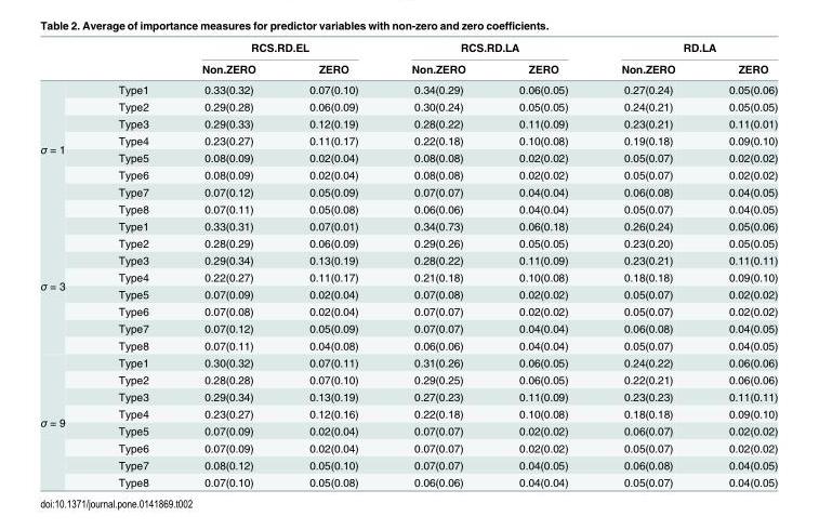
<table><thead><tr><td rowspan="2"></td><td rowspan="2"></td><td colspan="2">RCS.RD.EL</td><td colspan="2">RCS.RD.LA</td><td colspan="2">RD.LA</td></tr><tr><td>Non.ZERO</td><td>ZERO</td><td>Non.ZERO</td><td>ZERO</td><td>Non.ZERO</td><td>ZERO</td></tr></thead><tbody><tr><td rowspan="8">σ = 1</td><td>Type1</td><td>0.33(0.32)</td><td>0.07(0.10)</td><td>0.34(0.29)</td><td>0.06(0.05)</td><td>0.27(0.24)</td><td>0.05(0.06)</td></tr><tr><td>Type2</td><td>0.29(0.28)</td><td>0.06(0.09)</td><td>0.30(0.24)</td><td>0.05(0.05)</td><td>0.24(0.21)</td><td>0.05(0.05)</td></tr><tr><td>Type3</td><td>0.29(0.33)</td><td>0.12(0.19)</td><td>0.28(0.22)</td><td>0.11(0.09)</td><td>0.23(0.21)</td><td>0.11(0.01)</td></tr><tr><td>Type4</td><td>0.23(0.27)</td><td>0.11(0.17)</td><td>0.22(0.18)</td><td>0.10(0.08)</td><td>0.19(0.18)</td><td>0.09(0.10)</td></tr><tr><td>Type5</td><td>0.08(0.09)</td><td>0.02(0.04)</td><td>0.08(0.08)</td><td>0.02(0.02)</td><td>0.05(0.07)</td><td>0.02(0.02)</td></tr><tr><td>Type6</td><td>0.08(0.09)</td><td>0.02(0.04)</td><td>0.08(0.08)</td><td>0.02(0.02)</td><td>0.05(0.07)</td><td>0.02(0.02)</td></tr><tr><td>Type7</td><td>0.07(0.12)</td><td>0.05(0.09)</td><td>0.07(0.07)</td><td>0.04(0.04)</td><td>0.06(0.08)</td><td>0.04(0.05)</td></tr><tr><td>Type8</td><td>0.07(0.11)</td><td>0.05(0.08)</td><td>0.06(0.06)</td><td>0.04(0.04)</td><td>0.05(0.07)</td><td>0.04(0.05)</td></tr><tr><td rowspan="8">σ = 3</td><td>Type1</td><td>0.33(0.31)</td><td>0.07(0.01)</td><td>0.34(0.73)</td><td>0.06(0.18)</td><td>0.26(0.24)</td><td>0.05(0.06)</td></tr><tr><td>Type2</td><td>0.28(0.29)</td><td>0.06(0.09)</td><td>0.29(0.26)</td><td>0.05(0.05)</td><td>0.23(0.20)</td><td>0.05(0.05)</td></tr><tr><td>Type3</td><td>0.29(0.34)</td><td>0.13(0.19)</td><td>0.28(0.22)</td><td>0.11(0.09)</td><td>0.23(0.21)</td><td>0.11(0.11)</td></tr><tr><td>Type4</td><td>0.22(0.27)</td><td>0.11(0.17)</td><td>0.21(0.18)</td><td>0.10(0.08)</td><td>0.18(0.18)</td><td>0.09(0.10)</td></tr><tr><td>Type5</td><td>0.07(0.09)</td><td>0.02(0.04)</td><td>0.07(0.08)</td><td>0.02(0.02)</td><td>0.05(0.07)</td><td>0.02(0.02)</td></tr><tr><td>Type6</td><td>0.07(0.08)</td><td>0.02(0.04)</td><td>0.07(0.07)</td><td>0.02(0.02)</td><td>0.05(0.07)</td><td>0.02(0.02)</td></tr><tr><td>Type7</td><td>0.07(0.12)</td><td>0.05(0.09)</td><td>0.07(0.07)</td><td>0.04(0.04)</td><td>0.06(0.08)</td><td>0.04(0.05)</td></tr><tr><td>Type8</td><td>0.07(0.11)</td><td>0.04(0.08)</td><td>0.06(0.06)</td><td>0.04(0.04)</td><td>0.05(0.07)</td><td>0.04(0.05)</td></tr><tr><td rowspan="8">σ = 9</td><td>Type1</td><td>0.30(0.32)</td><td>0.07(0.11)</td><td>0.31(0.26)</td><td>0.06(0.05)</td><td>0.24(0.22)</td><td>0.06(0.06)</td></tr><tr><td>Type2</td><td>0.28(0.28)</td><td>0.07(0.10)</td><td>0.29(0.25)</td><td>0.06(0.05)</td><td>0.22(0.21)</td><td>0.06(0.06)</td></tr><tr><td>Type3</td><td>0.29(0.34)</td><td>0.13(0.19)</td><td>0.27(0.23)</td><td>0.11(0.09)</td><td>0.23(0.23)</td><td>0.11(0.11)</td></tr><tr><td>Type4</td><td>0.23(0.27)</td><td>0.12(0.16)</td><td>0.22(0.18)</td><td>0.10(0.08)</td><td>0.18(0.18)</td><td>0.09(0.10)</td></tr><tr><td>Type5</td><td>0.07(0.09)</td><td>0.02(0.04)</td><td>0.07(0.07)</td><td>0.02(0.02)</td><td>0.06(0.07)</td><td>0.02(0.02)</td></tr><tr><td>Type6</td><td>0.07(0.09)</td><td>0.02(0.04)</td><td>0.07(0.07)</td><td>0.02(0.02)</td><td>0.05(0.07)</td><td>0.02(0.02)</td></tr><tr><td>Type7</td><td>0.08(0.12)</td><td>0.05(0.10)</td><td>0.07(0.07)</td><td>0.04(0.05)</td><td>0.06(0.08)</td><td>0.04(0.05)</td></tr><tr><td>Type8</td><td>0.07(0.10)</td><td>0.05(0.08)</td><td>0.06(0.06)</td><td>0.04(0.04)</td><td>0.05(0.07)</td><td>0.04(0.05)</td></tr></tbody></table>